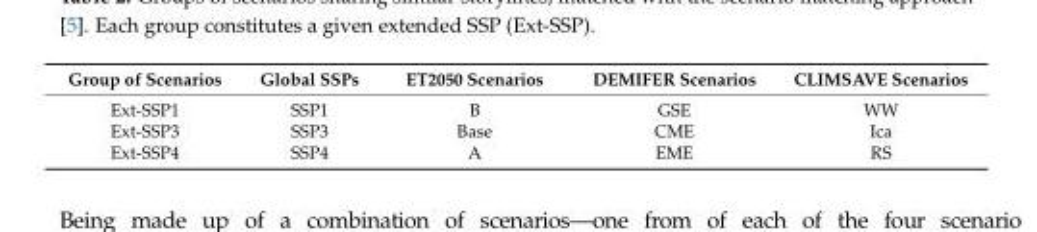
<table><thead><tr><td>Group of Scenarios</td><td>Global SSPs</td><td>ET2050 Scenarios</td><td>DEMIFER Scenarios</td><td>CLIMSAVE Scenarios</td></tr></thead><tbody><tr><td>Ext-SSP1</td><td>SSP1</td><td>B</td><td>GSE</td><td>WW</td></tr><tr><td>Ext-SSP3</td><td>SSP3</td><td>Base</td><td>CME</td><td>Ica</td></tr><tr><td>Ext-SSP4</td><td>SSP4</td><td>A</td><td>EME</td><td>RS</td></tr></tbody></table>